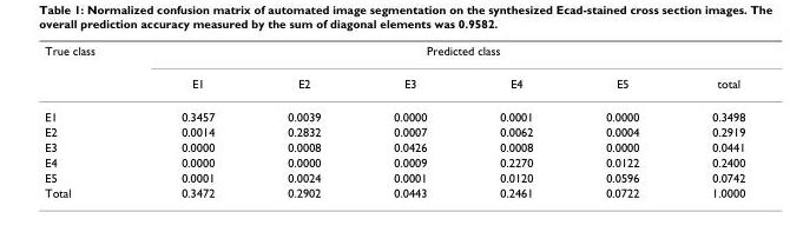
<table><thead><tr><td rowspan="2">True class</td><td colspan="6">Predicted class</td></tr><tr><td>E1</td><td>E2</td><td>E3</td><td>E4</td><td>E5</td><td>total</td></tr></thead><tbody><tr><td>E1</td><td>0.3457</td><td>0.0039</td><td>0.0000</td><td>0.0001</td><td>0.0000</td><td>0.3498</td></tr><tr><td>E2</td><td>0.0014</td><td>0.2832</td><td>0.0007</td><td>0.0062</td><td>0.0004</td><td>0.2919</td></tr><tr><td>E3</td><td>0.0000</td><td>0.0008</td><td>0.0426</td><td>0.0008</td><td>0.0000</td><td>0.0441</td></tr><tr><td>E4</td><td>0.0000</td><td>0.0000</td><td>0.0009</td><td>0.2270</td><td>0.0122</td><td>0.2400</td></tr><tr><td>E5</td><td>0.0001</td><td>0.0024</td><td>0.0001</td><td>0.0120</td><td>0.0596</td><td>0.0742</td></tr><tr><td>Total</td><td>0.3472</td><td>0.2902</td><td>0.0443</td><td>0.2461</td><td>0.0722</td><td>1.0000</td></tr></tbody></table>